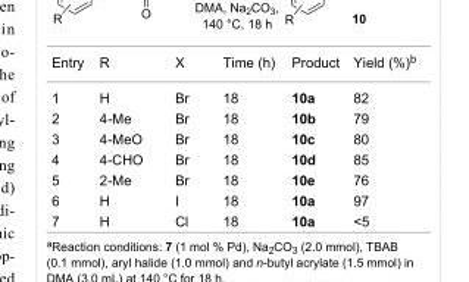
<table><tbody><tr><td>Entry</td><td>R</td><td>X</td><td>Time (h)</td><td>Product</td><td>Yield (%)<sup>b</sup></td></tr><tr><td>1</td><td>H</td><td>Br</td><td>18</td><td>10a</td><td>82</td></tr><tr><td>2</td><td>4-Me</td><td>Br</td><td>18</td><td>10b</td><td>79</td></tr><tr><td>3</td><td>4-MeO</td><td>Br</td><td>18</td><td>10c</td><td>80</td></tr><tr><td>4</td><td>4-CHO</td><td>Br</td><td>18</td><td>10d</td><td>85</td></tr><tr><td>5</td><td>2-Me</td><td>Br</td><td>18</td><td>10e</td><td>76</td></tr><tr><td>6</td><td>H</td><td>I</td><td>18</td><td>10a</td><td>97</td></tr><tr><td>7</td><td>H</td><td>Cl</td><td>18</td><td>10a</td><td>&lt;5</td></tr></tbody></table>